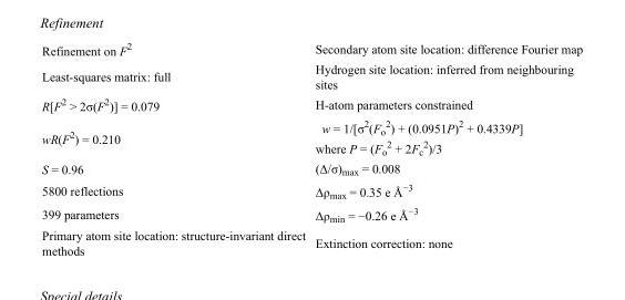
<table><tbody><tr><td>Refinement on F<sup>2</sup></td><td>Secondary atom site location: difference Fourier map</td></tr><tr><td>Least-squares matrix: full</td><td>Hydrogen site location: inferred from neighbouring sites</td></tr><tr><td>R[F<sup>2</sup> &gt; 2σ(F<sup>2</sup>)] = 0.079</td><td>H-atom parameters constrained</td></tr><tr><td>wR(F<sup>2</sup>) = 0.210</td><td>w = 1/[σ<sup>2</sup>(F<sub>o</sub> <sup>2</sup>) + (0.0951P)<sup>2</sup> + 0.4339P] where P = (F<sub>o</sub> <sup>2</sup> + 2F<sub>c</sub> <sup>2</sup>)/3</td></tr><tr><td>S = 0.96</td><td>(Δ/σ)<sub>max</sub> = 0.008</td></tr><tr><td>5800 reflections</td><td>Δρ<sub>max</sub> = 0.35 e Å<sup>−3</sup></td></tr><tr><td>399 parameters</td><td>Δρ<sub>min</sub> = −0.26 e Å<sup>−3</sup></td></tr><tr><td>Primary atom site location: structure-invariant direct methods</td><td>Extinction correction: none</td></tr></tbody></table>